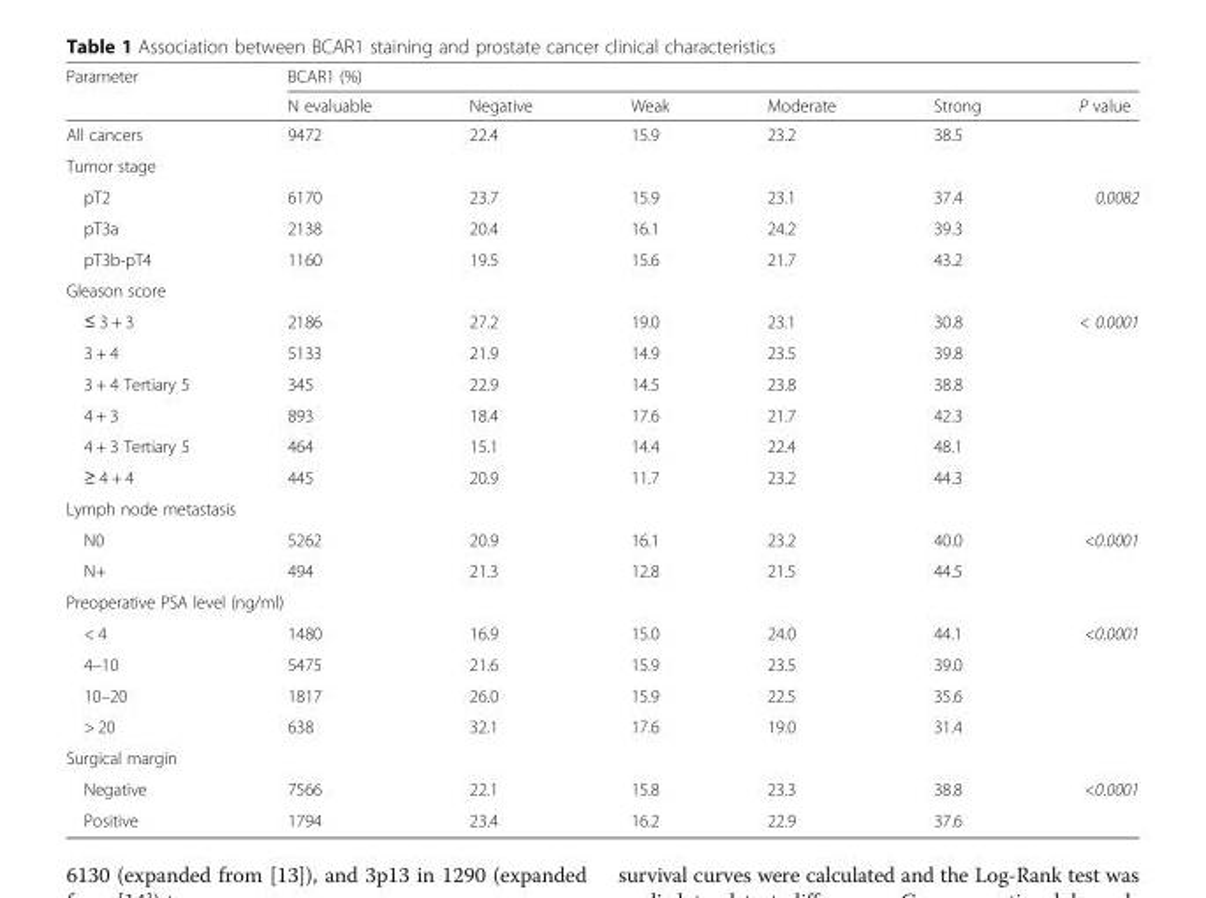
<table><thead><tr><td rowspan="2">Parameter</td><td colspan="6">BCAR1 (%)</td></tr><tr><td>N evaluable</td><td>Negative</td><td>Weak</td><td>Moderate</td><td>Strong</td><td>P value</td></tr></thead><tbody><tr><td>All cancers</td><td>9472</td><td>22.4</td><td>15.9</td><td>23.2</td><td>38.5</td><td></td></tr><tr><td colspan="7">Tumor stage</td></tr><tr><td>pT2</td><td>6170</td><td>23.7</td><td>15.9</td><td>23.1</td><td>37.4</td><td rowspan="3">0.0082</td></tr><tr><td>pT3a</td><td>2138</td><td>20.4</td><td>16.1</td><td>24.2</td><td>39.3</td></tr><tr><td>pT3b-pT4</td><td>1160</td><td>19.5</td><td>15.6</td><td>21.7</td><td>43.2</td></tr><tr><td colspan="7">Gleason score</td></tr><tr><td>≤ 3 + 3</td><td>2186</td><td>27.2</td><td>19.0</td><td>23.1</td><td>30.8</td><td rowspan="6">&lt; 0.0001</td></tr><tr><td>3 + 4</td><td>5133</td><td>21.9</td><td>14.9</td><td>23.5</td><td>39.8</td></tr><tr><td>3 + 4 Tertiary 5</td><td>345</td><td>22.9</td><td>14.5</td><td>23.8</td><td>38.8</td></tr><tr><td>4 + 3</td><td>893</td><td>18.4</td><td>17.6</td><td>21.7</td><td>42.3</td></tr><tr><td>4 + 3 Tertiary 5</td><td>464</td><td>15.1</td><td>14.4</td><td>22.4</td><td>48.1</td></tr><tr><td>≥ 4 + 4</td><td>445</td><td>20.9</td><td>11.7</td><td>23.2</td><td>44.3</td></tr><tr><td colspan="7">Lymph node metastasis</td></tr><tr><td>N0</td><td>5262</td><td>20.9</td><td>16.1</td><td>23.2</td><td>40.0</td><td rowspan="2">&lt;0.0001</td></tr><tr><td>N+</td><td>494</td><td>21.3</td><td>12.8</td><td>21.5</td><td>44.5</td></tr><tr><td colspan="7">Preoperative PSA level (ng/ml)</td></tr><tr><td>&lt; 4</td><td>1480</td><td>16.9</td><td>15.0</td><td>24.0</td><td>44.1</td><td rowspan="4">&lt;0.0001</td></tr><tr><td>4–10</td><td>5475</td><td>21.6</td><td>15.9</td><td>23.5</td><td>39.0</td></tr><tr><td>10–20</td><td>1817</td><td>26.0</td><td>15.9</td><td>22.5</td><td>35.6</td></tr><tr><td>&gt; 20</td><td>638</td><td>32.1</td><td>17.6</td><td>19.0</td><td>31.4</td></tr><tr><td colspan="7">Surgical margin</td></tr><tr><td>Negative</td><td>7566</td><td>22.1</td><td>15.8</td><td>23.3</td><td>38.8</td><td rowspan="2">&lt;0.0001</td></tr><tr><td>Positive</td><td>1794</td><td>23.4</td><td>16.2</td><td>22.9</td><td>37.6</td></tr></tbody></table>